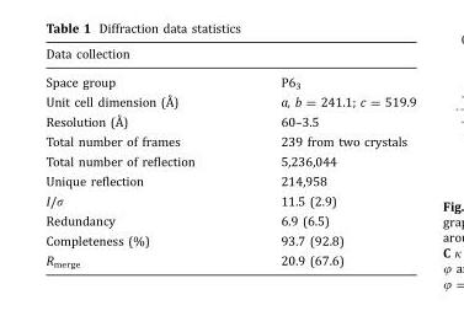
<table><thead><tr><td colspan="2">Data collection</td></tr><tr><td>Space group</td><td>P6<sub>3</sub></td></tr></thead><tbody><tr><td>Unit cell dimension (Å)</td><td>a, b = 241.1; c = 519.9</td></tr><tr><td>Resolution (Å)</td><td>60–3.5</td></tr><tr><td>Total number of frames</td><td>239 from two crystals</td></tr><tr><td>Total number of reflection</td><td>5,236,044</td></tr><tr><td>Unique reflection</td><td>214,958</td></tr><tr><td>I/σ</td><td>11.5 (2.9)</td></tr><tr><td>Redundancy</td><td>6.9 (6.5)</td></tr><tr><td>Completeness (%)</td><td>93.7 (92.8)</td></tr><tr><td>R<sub>merge</sub></td><td>20.9 (67.6)</td></tr></tbody></table>